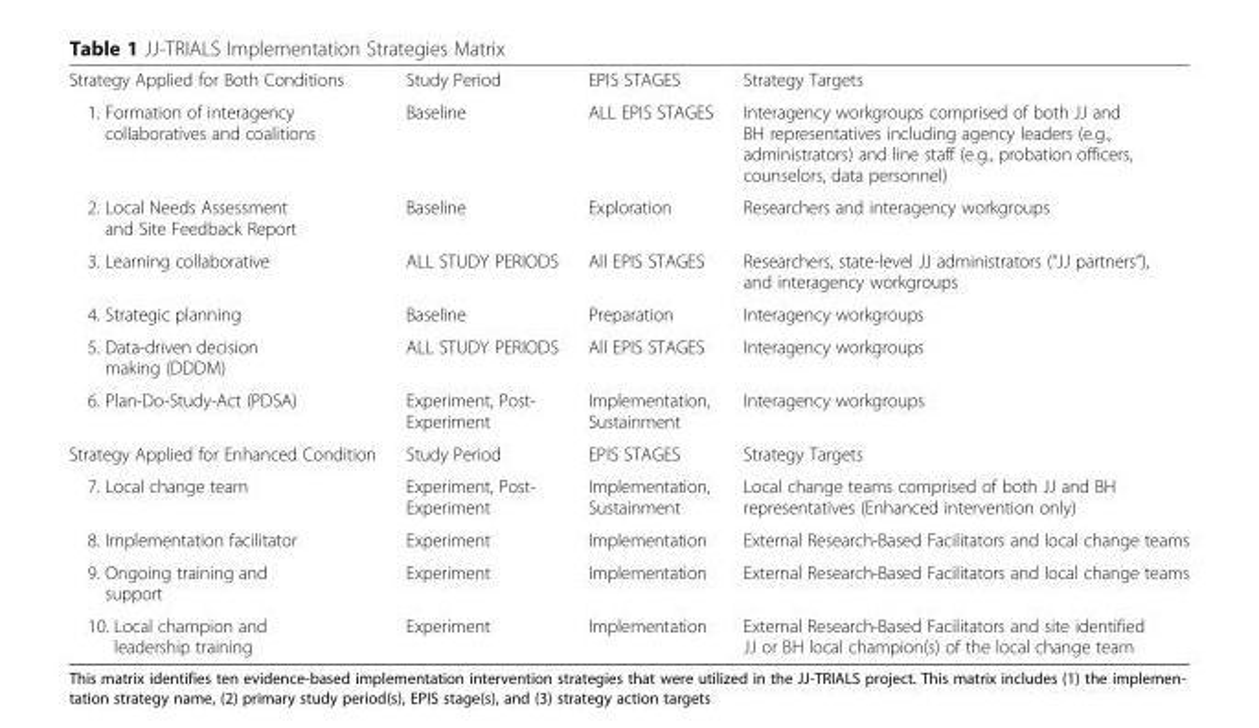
<table><tbody><tr><td>Strategy Applied for Both Conditions</td><td>Study Period</td><td>EPIS STAGES</td><td>Strategy Targets</td></tr><tr><td>1. Formation of interagency collaboratives and coalitions</td><td>Baseline</td><td>ALL EPIS STAGES</td><td>Interagency workgroups comprised of both JJ and BH representatives including agency leaders (e.g., administrators) and line staff (e.g., probation officers, counselors, data personnel)</td></tr><tr><td>2. Local Needs Assessment and Site Feedback Report</td><td>Baseline</td><td>Exploration</td><td>Researchers and interagency workgroups</td></tr><tr><td>3. Learning collaborative</td><td>ALL STUDY PERIODS</td><td>All EPIS STAGES</td><td>Researchers, state-level JJ administrators (“JJ partners”), and interagency workgroups</td></tr><tr><td>4. Strategic planning</td><td>Baseline</td><td>Preparation</td><td>Interagency workgroups</td></tr><tr><td>5. Data-driven decision making (DDDM)</td><td>ALL STUDY PERIODS</td><td>All EPIS STAGES</td><td>Interagency workgroups</td></tr><tr><td>6. Plan-Do-Study-Act (PDSA)</td><td>Experiment, Post- Experiment</td><td>Implementation, Sustainment</td><td>Interagency workgroups</td></tr><tr><td>Strategy Applied for Enhanced Condition</td><td>Study Period</td><td>EPIS STAGES</td><td>Strategy Targets</td></tr><tr><td>7. Local change team</td><td>Experiment, Post- Experiment</td><td>Implementation, Sustainment</td><td>Local change teams comprised of both JJ and BH representatives (Enhanced intervention only)</td></tr><tr><td>8. Implementation facilitator</td><td>Experiment</td><td>Implementation</td><td>External Research-Based Facilitators and local change teams</td></tr><tr><td>9. Ongoing training and support</td><td>Experiment</td><td>Implementation</td><td>External Research-Based Facilitators and local change teams</td></tr><tr><td>10. Local champion and leadership training</td><td>Experiment</td><td>Implementation</td><td>External Research-Based Facilitators and site identified JJ or BH local champion(s) of the local change team</td></tr></tbody></table>